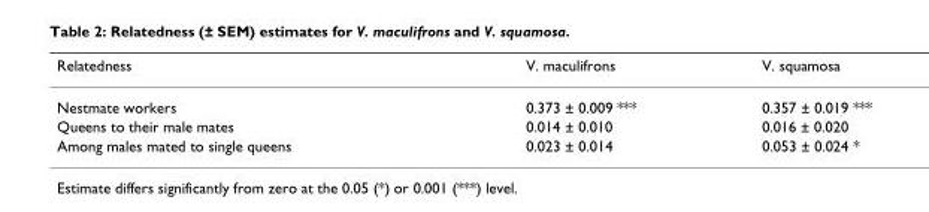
<table><thead><tr><td>Relatedness</td><td>V. maculifrons</td><td>V. squamosa</td></tr></thead><tbody><tr><td>Nestmate workers</td><td>0.373 ± 0.009 ***</td><td>0.357 ± 0.019 ***</td></tr><tr><td>Queens to their male mates</td><td>0.014 ± 0.010</td><td>0.016 ± 0.020</td></tr><tr><td>Among males mated to single queens</td><td>0.023 ± 0.014</td><td>0.053 ± 0.024 *</td></tr></tbody></table>